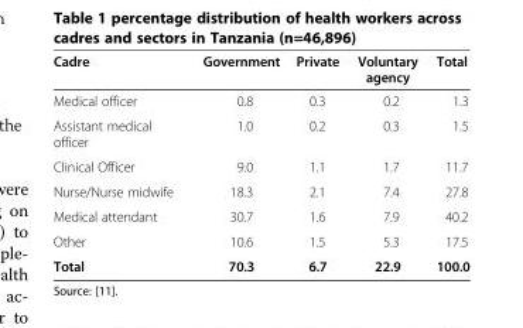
<table><thead><tr><td>Cadre</td><td>Government</td><td>Private</td><td>Voluntary agency</td><td>Total</td></tr></thead><tbody><tr><td>Medical officer</td><td>0.8</td><td>0.3</td><td>0.2</td><td>1.3</td></tr><tr><td>Assistant medical officer</td><td>1.0</td><td>0.2</td><td>0.3</td><td>1.5</td></tr><tr><td>Clinical Officer</td><td>9.0</td><td>1.1</td><td>1.7</td><td>11.7</td></tr><tr><td>Nurse/Nurse midwife</td><td>18.3</td><td>2.1</td><td>7.4</td><td>27.8</td></tr><tr><td>Medical attendant</td><td>30.7</td><td>1.6</td><td>7.9</td><td>40.2</td></tr><tr><td>Other</td><td>10.6</td><td>1.5</td><td>5.3</td><td>17.5</td></tr><tr><td>Total</td><td>70.3</td><td>6.7</td><td>22.9</td><td>100.0</td></tr></tbody></table>